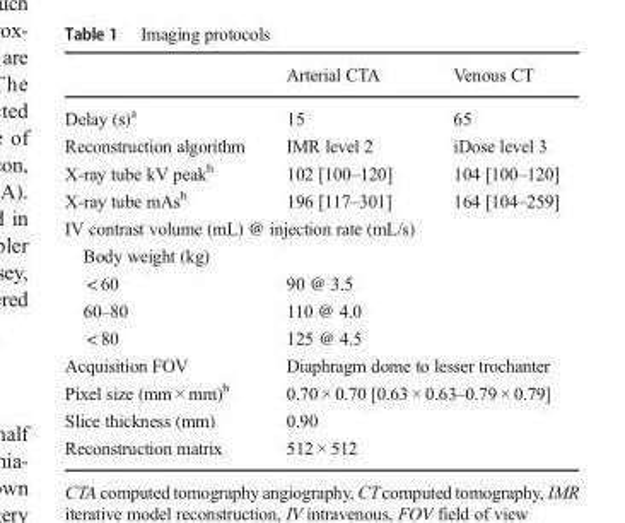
<table><thead><tr><td></td><td>Arterial CTA</td><td>Venous CT</td></tr></thead><tbody><tr><td>Delay (s)<sup>a</sup></td><td>15</td><td>65</td></tr><tr><td>Reconstruction algorithm</td><td>IMR level 2</td><td>iDose level 3</td></tr><tr><td>X-ray tube kV peak<sup>b</sup></td><td>102 [100–120]</td><td>104 [100–120]</td></tr><tr><td>X-ray tube mAs<sup>b</sup></td><td>196 [117–301]</td><td>164 [104–259]</td></tr><tr><td colspan="3">IV contrast volume (mL) @ injection rate (mL/s)</td></tr><tr><td colspan="3">Body weight (kg)</td></tr><tr><td>&lt; 60</td><td colspan="2">90 @ 3.5</td></tr><tr><td>60–80</td><td colspan="2">110 @ 4.0</td></tr><tr><td>&lt; 80</td><td colspan="2">125 @ 4.5</td></tr><tr><td>Acquisition FOV</td><td colspan="2">Diaphragm dome to lesser trochanter</td></tr><tr><td>Pixel size (mm × mm)<sup>b</sup></td><td colspan="2">0.70 × 0.70 [0.63 × 0.63–0.79 × 0.79]</td></tr><tr><td>Slice thickness (mm)</td><td colspan="2">0.90</td></tr><tr><td>Reconstruction matrix</td><td colspan="2">512 × 512</td></tr></tbody></table>